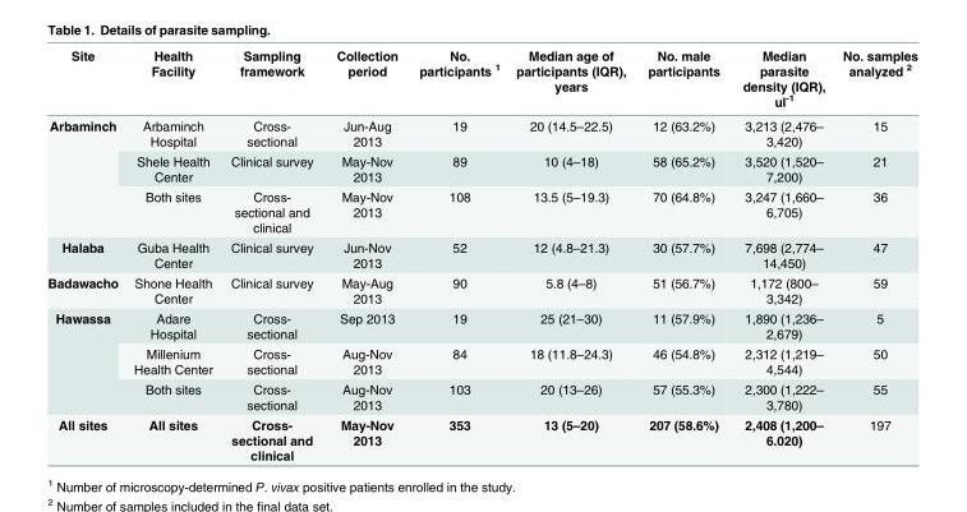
<table><thead><tr><td>Site</td><td>Health Facility</td><td>Sampling framework</td><td>Collection period</td><td>No. participants <sup>1</sup></td><td>Median age of participants (IQR), years</td><td>No. male participants</td><td>Median parasite density (IQR), ul<sup>-1</sup></td><td>No. samples analyzed <sup>2</sup></td></tr></thead><tbody><tr><td rowspan="3">Arbaminch</td><td>Arbaminch Hospital</td><td>Cross- sectional</td><td>Jun-Aug 2013</td><td>19</td><td>20 (14.5–22.5)</td><td>12 (63.2%)</td><td>3,213 (2,476– 3,420)</td><td>15</td></tr><tr><td>Shele Health Center</td><td>Clinical survey</td><td>May-Nov 2013</td><td>89</td><td>10 (4–18)</td><td>58 (65.2%)</td><td>3,520 (1,520– 7,200)</td><td>21</td></tr><tr><td>Both sites</td><td>Cross- sectional and clinical</td><td>May-Nov 2013</td><td>108</td><td>13.5 (5–19.3)</td><td>70 (64.8%)</td><td>3,247 (1,660– 6,705)</td><td>36</td></tr><tr><td>Halaba</td><td>Guba Health Center</td><td>Clinical survey</td><td>Jun-Nov 2013</td><td>52</td><td>12 (4.8–21.3)</td><td>30 (57.7%)</td><td>7,698 (2,774– 14,450)</td><td>47</td></tr><tr><td>Badawacho</td><td>Shone Health Center</td><td>Clinical survey</td><td>May-Aug 2013</td><td>90</td><td>5.8 (4–8)</td><td>51 (56.7%)</td><td>1,172 (800– 3,342)</td><td>59</td></tr><tr><td rowspan="3">Hawassa</td><td>Adare Hospital</td><td>Cross- sectional</td><td>Sep 2013</td><td>19</td><td>25 (21–30)</td><td>11 (57.9%)</td><td>1,890 (1,236– 2,679)</td><td>5</td></tr><tr><td>Millenium Health Center</td><td>Cross- sectional</td><td>Aug-Nov 2013</td><td>84</td><td>18 (11.8–24.3)</td><td>46 (54.8%)</td><td>2,312 (1,219– 4,544)</td><td>50</td></tr><tr><td>Both sites</td><td>Cross- sectional</td><td>Aug-Nov 2013</td><td>103</td><td>20 (13–26)</td><td>57 (55.3%)</td><td>2,300 (1,222– 3,780)</td><td>55</td></tr><tr><td>All sites</td><td>All sites</td><td>Cross- sectional and clinical</td><td>May-Nov 2013</td><td>353</td><td>13 (5–20)</td><td>207 (58.6%)</td><td>2,408 (1,200– 6.020)</td><td>197</td></tr></tbody></table>